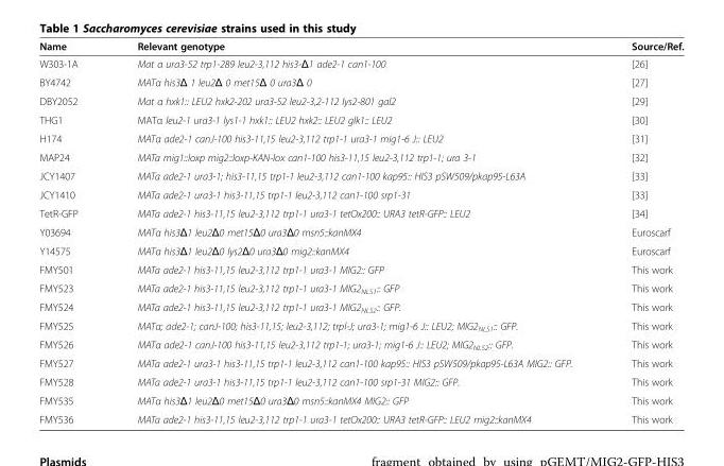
<table><thead><tr><td>Name</td><td>Relevant genotype</td><td>Source/Ref.</td></tr></thead><tbody><tr><td>W303-1A</td><td>Mat α ura3-52 trp1-289 leu2-3,112 his3-Δ1 ade2-1 can1-100</td><td>[26]</td></tr><tr><td>BY4742</td><td>MATα his3Δ 1 leu2Δ 0 met15Δ 0 ura3Δ 0</td><td>[27]</td></tr><tr><td>DBY2052</td><td>Mat α hxk1:: LEU2 hxk2-202 ura3-52 leu2-3,2-112 lys2-801 gal2</td><td>[29]</td></tr><tr><td>THG1</td><td>MATα leu2-1 ura3-1 lys1-1 hxk1:: LEU2 hxk2:: LEU2 glk1:: LEU2</td><td>[30]</td></tr><tr><td>H174</td><td>MATα ade2-1 canJ-100 his3-11,15 leu2-3,112 trp1-1 ura3-1 mig1-6 J:: LEU2</td><td>[31]</td></tr><tr><td>MAP24</td><td>MATa mig1::loxp mig2::loxp-KAN-lox can1-100 his3-11,15 leu2-3,112 trp1-1; ura 3-1</td><td>[32]</td></tr><tr><td>JCY1407</td><td>MATa ade2-1 ura3-1; his3-11,15 trp1-1 leu2-3,112 can1-100 kap95:: HIS3 pSW509/pkap95-L63A</td><td>[33]</td></tr><tr><td>JCY1410</td><td>MATa ade2-1 ura3-1 his3-11,15 trp1-1 leu2-3,112 can1-100 srp1-31</td><td>[33]</td></tr><tr><td>TetR-GFP</td><td>MATa ade2-1 his3-11,15 leu2-3,112 trp1-1 ura3-1 tetOx200:: URA3 tetR-GFP:: LEU2</td><td>[34]</td></tr><tr><td>Y03694</td><td>MATα his3Δ1 leu2Δ0 met15Δ0 ura3Δ0 msn5::kanMX4</td><td>Euroscarf</td></tr><tr><td>Y14575</td><td>MATα his3Δ1 leu2Δ0 lys2Δ0 ura3Δ0 mig2::kanMX4</td><td>Euroscarf</td></tr><tr><td>FMY501</td><td>MATa ade2-1 his3-11,15 leu2-3,112 trp1-1 ura3-1 MIG2:: GFP</td><td>This work</td></tr><tr><td>FMY523</td><td>MATa ade2-1 his3-11,15 leu2-3,112 trp1-1 ura3-1 MIG2<sub>NLS1</sub>:: GFP</td><td>This work</td></tr><tr><td>FMY524</td><td>MATa ade2-1 his3-11,15 leu2-3,112 trp1-1 ura3-1 MIG2<sub>NLS2</sub>:: GFP.</td><td>This work</td></tr><tr><td>FMY525</td><td>MATα; ade2-1; canJ-100; his3-11,15; leu2-3,112; trpl-J; ura3-1; mig1-6 J:: LEU2; MIG2<sub>NLS1</sub>:: GFP.</td><td>This work</td></tr><tr><td>FMY526</td><td>MATα ade2-1 canJ-100 his3-11,15 leu2-3,112 trp1-1; ura3-1; mig1-6 J:: LEU2; MIG2<sub>NLS2</sub>:: GFP.</td><td>This work</td></tr><tr><td>FMY527</td><td>MATa ade2-1 ura3-1 his3-11,15 trp1-1 leu2-3,112 can1-100 kap95:: HIS3 pSW509/pkap95-L63A MIG2:: GFP.</td><td>This work</td></tr><tr><td>FMY528</td><td>MATa ade2-1 ura3-1 his3-11,15 trp1-1 leu2-3,112 can1-100 srp1-31 MIG2:: GFP.</td><td>This work</td></tr><tr><td>FMY535</td><td>MATα his3Δ1 leu2Δ0 met15Δ0 ura3Δ0 msn5::kanMX4 MIG2:: GFP</td><td>This work</td></tr><tr><td>FMY536</td><td>MATa ade2-1 his3-11,15 leu2-3,112 trp1-1 ura3-1 tetOx200:: URA3 tetR-GFP:: LEU2 mig2::kanMX4</td><td>This work</td></tr></tbody></table>